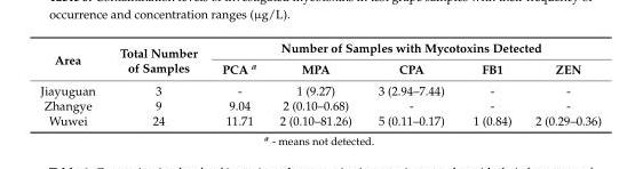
<table><thead><tr><td rowspan="2">Area</td><td rowspan="2">Total Number of Samples</td><td colspan="5">Number of Samples with Mycotoxins Detected</td></tr><tr><td>PCA <sup>a</sup></td><td>MPA</td><td>CPA</td><td>FB1</td><td>ZEN</td></tr></thead><tbody><tr><td>Jiayuguan</td><td>3</td><td>-</td><td>1 (9.27)</td><td>3 (2.94–7.44)</td><td>-</td><td>-</td></tr><tr><td>Zhangye</td><td>9</td><td>9.04</td><td>2 (0.10–0.68)</td><td>-</td><td>-</td><td>-</td></tr><tr><td>Wuwei</td><td>24</td><td>11.71</td><td>2 (0.10–81.26)</td><td>5 (0.11–0.17)</td><td>1 (0.84)</td><td>2 (0.29–0.36)</td></tr></tbody></table>